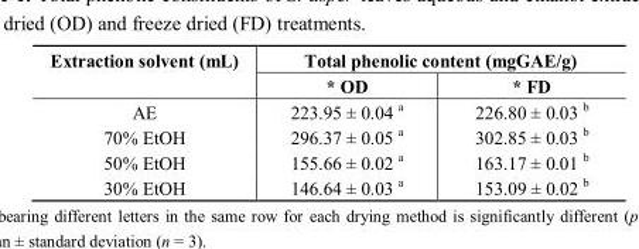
<table><thead><tr><td rowspan="2">Extraction solvent (mL)</td><td colspan="2">Total phenolic content (mgGAE/g)</td></tr><tr><td>* OD</td><td>* FD</td></tr></thead><tbody><tr><td>AE</td><td>223.95 ± 0.04 <sup>a</sup></td><td>226.80 ± 0.03 <sup>b</sup></td></tr><tr><td>70% EtOH</td><td>296.37 ± 0.05 <sup>a</sup></td><td>302.85 ± 0.03 <sup>b</sup></td></tr><tr><td>50% EtOH</td><td>155.66 ± 0.02 <sup>a</sup></td><td>163.17 ± 0.01 <sup>b</sup></td></tr><tr><td>30% EtOH</td><td>146.64 ± 0.03 <sup>a</sup></td><td>153.09 ± 0.02 <sup>b</sup></td></tr></tbody></table>